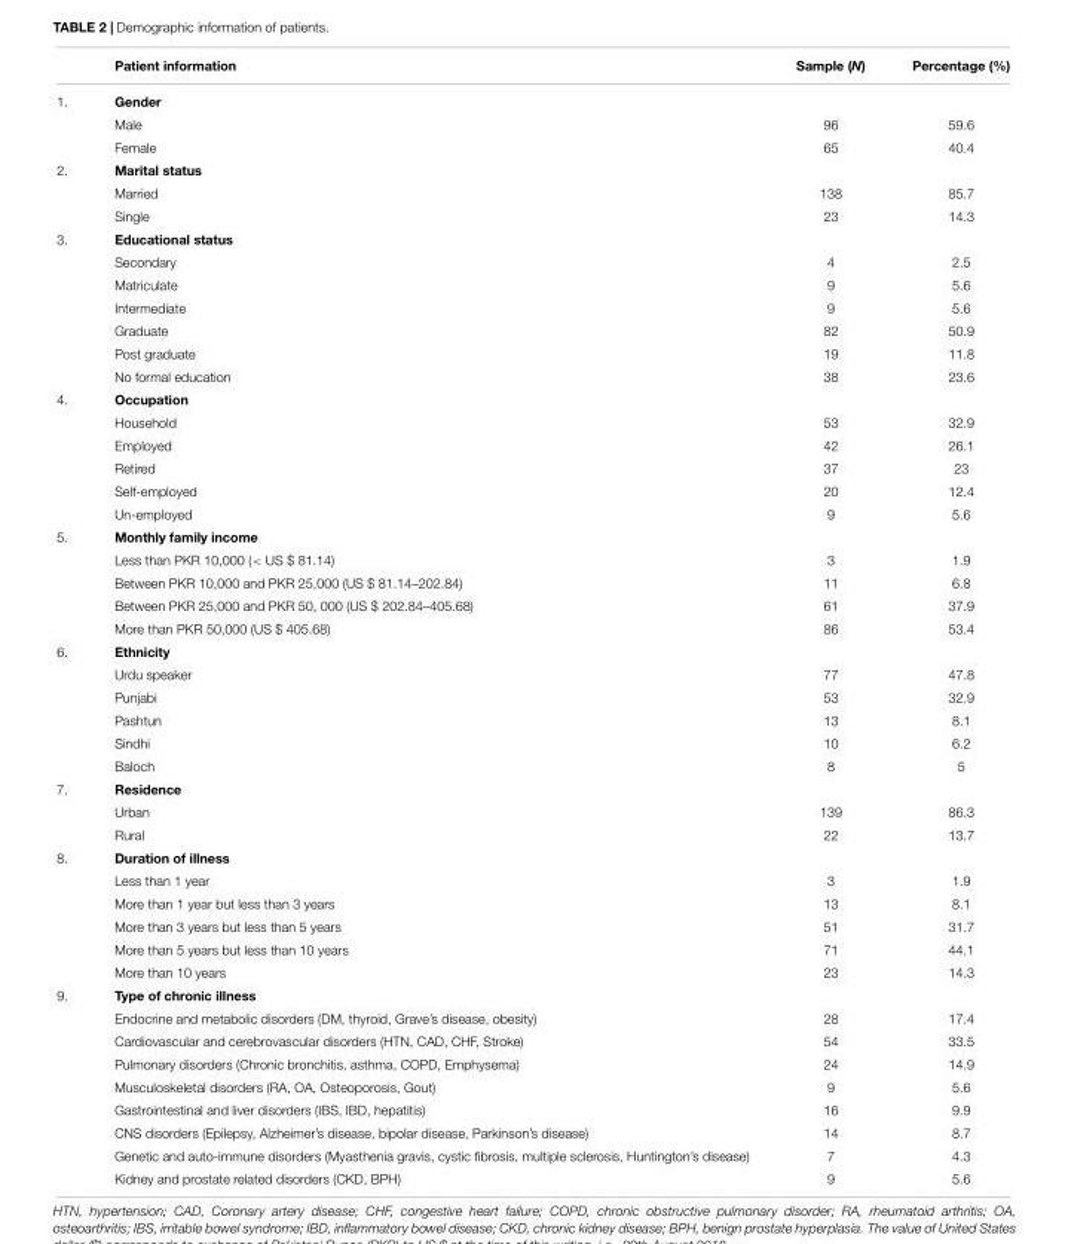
<table><thead><tr><td></td><td>Patient information</td><td>Sample (N)</td><td>Percentage (%)</td></tr></thead><tbody><tr><td rowspan="3">1.</td><td>Gender</td><td></td><td></td></tr><tr><td>Male</td><td>96</td><td>59.6</td></tr><tr><td>Female</td><td>65</td><td>40.4</td></tr><tr><td rowspan="3">2.</td><td>Marital status</td><td></td><td></td></tr><tr><td>Married</td><td>138</td><td>85.7</td></tr><tr><td>Single</td><td>23</td><td>14.3</td></tr><tr><td rowspan="7">3.</td><td>Educational status</td><td></td><td></td></tr><tr><td>Secondary</td><td>4</td><td>2.5</td></tr><tr><td>Matriculate</td><td>9</td><td>5.6</td></tr><tr><td>Intermediate</td><td>9</td><td>5.6</td></tr><tr><td>Graduate</td><td>82</td><td>50.9</td></tr><tr><td>Post graduate</td><td>19</td><td>11.8</td></tr><tr><td>No formal education</td><td>38</td><td>23.6</td></tr><tr><td rowspan="6">4.</td><td>Occupation</td><td></td><td></td></tr><tr><td>Household</td><td>53</td><td>32.9</td></tr><tr><td>Employed</td><td>42</td><td>26.1</td></tr><tr><td>Retired</td><td>37</td><td>23</td></tr><tr><td>Self-employed</td><td>20</td><td>12.4</td></tr><tr><td>Un-employed</td><td>9</td><td>5.6</td></tr><tr><td rowspan="5">5.</td><td>Monthly family income</td><td></td><td></td></tr><tr><td>Less than PKR 10,000 (&lt; US $ 81.14)</td><td>3</td><td>1.9</td></tr><tr><td>Between PKR 10,000 and PKR 25,000 (US $ 81.14–202.84)</td><td>11</td><td>6.8</td></tr><tr><td>Between PKR 25,000 and PKR 50, 000 (US $ 202.84–405.68)</td><td>61</td><td>37.9</td></tr><tr><td>More than PKR 50,000 (US $ 405.68)</td><td>86</td><td>53.4</td></tr><tr><td rowspan="6">6.</td><td>Ethnicity</td><td></td><td></td></tr><tr><td>Urdu speaker</td><td>77</td><td>47.8</td></tr><tr><td>Punjabi</td><td>53</td><td>32.9</td></tr><tr><td>Pashtun</td><td>13</td><td>8.1</td></tr><tr><td>Sindhi</td><td>10</td><td>6.2</td></tr><tr><td>Baloch</td><td>8</td><td>5</td></tr><tr><td rowspan="3">7.</td><td>Residence</td><td></td><td></td></tr><tr><td>Urban</td><td>139</td><td>86.3</td></tr><tr><td>Rural</td><td>22</td><td>13.7</td></tr><tr><td rowspan="6">8.</td><td>Duration of illness</td><td></td><td></td></tr><tr><td>Less than 1 year</td><td>3</td><td>1.9</td></tr><tr><td>More than 1 year but less than 3 years</td><td>13</td><td>8.1</td></tr><tr><td>More than 3 years but less than 5 years</td><td>51</td><td>31.7</td></tr><tr><td>More than 5 years but less than 10 years</td><td>71</td><td>44.1</td></tr><tr><td>More than 10 years</td><td>23</td><td>14.3</td></tr><tr><td rowspan="9">9.</td><td>Type of chronic illness</td><td></td><td></td></tr><tr><td>Endocrine and metabolic disorders (DM, thyroid, Grave’s disease, obesity)</td><td>28</td><td>17.4</td></tr><tr><td>Cardiovascular and cerebrovascular disorders (HTN, CAD, CHF, Stroke)</td><td>54</td><td>33.5</td></tr><tr><td>Pulmonary disorders (Chronic bronchitis, asthma, COPD, Emphysema)</td><td>24</td><td>14.9</td></tr><tr><td>Musculoskeletal disorders (RA, OA, Osteoporosis, Gout)</td><td>9</td><td>5.6</td></tr><tr><td>Gastrointestinal and liver disorders (IBS, IBD, hepatitis)</td><td>16</td><td>9.9</td></tr><tr><td>CNS disorders (Epilepsy, Alzheimer’s disease, bipolar disease, Parkinson’s disease)</td><td>14</td><td>8.7</td></tr><tr><td>Genetic and auto-immune disorders (Myasthenia gravis, cystic fibrosis, multiple sclerosis, Huntington’s disease)</td><td>7</td><td>4.3</td></tr><tr><td>Kidney and prostate related disorders (CKD, BPH)</td><td>9</td><td>5.6</td></tr></tbody></table>